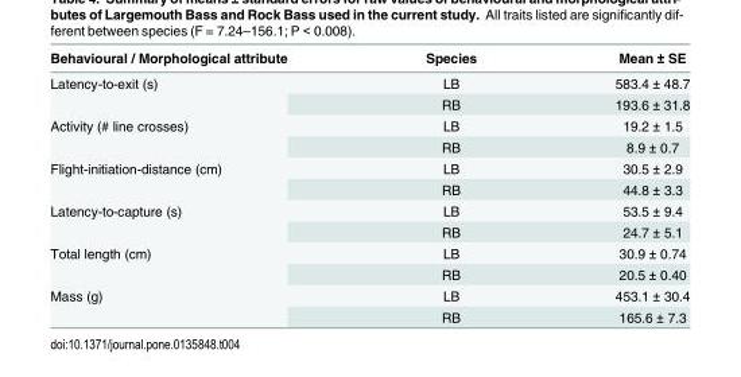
<table><thead><tr><td>Behavioural / Morphological attribute</td><td>Species</td><td>Mean ± SE</td></tr></thead><tbody><tr><td rowspan="2">Latency-to-exit (s)</td><td>LB</td><td>583.4 ± 48.7</td></tr><tr><td>RB</td><td>193.6 ± 31.8</td></tr><tr><td rowspan="2">Activity (# line crosses)</td><td>LB</td><td>19.2 ± 1.5</td></tr><tr><td>RB</td><td>8.9 ± 0.7</td></tr><tr><td rowspan="2">Flight-initiation-distance (cm)</td><td>LB</td><td>30.5 ± 2.9</td></tr><tr><td>RB</td><td>44.8 ± 3.3</td></tr><tr><td rowspan="2">Latency-to-capture (s)</td><td>LB</td><td>53.5 ± 9.4</td></tr><tr><td>RB</td><td>24.7 ± 5.1</td></tr><tr><td rowspan="2">Total length (cm)</td><td>LB</td><td>30.9 ± 0.74</td></tr><tr><td>RB</td><td>20.5 ± 0.40</td></tr><tr><td rowspan="2">Mass (g)</td><td>LB</td><td>453.1 ± 30.4</td></tr><tr><td>RB</td><td>165.6 ± 7.3</td></tr></tbody></table>